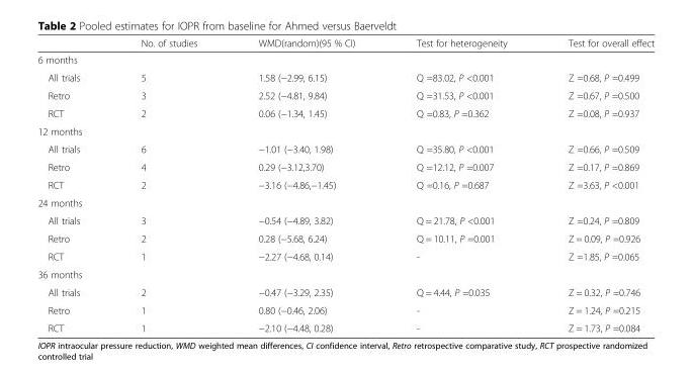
<table><thead><tr><td></td><td>No. of studies</td><td>WMD(random)(95 % CI)</td><td>Test for heterogeneity</td><td>Test for overall effect</td></tr></thead><tbody><tr><td colspan="5">6 months</td></tr><tr><td>All trials</td><td>5</td><td>1.58 (−2.99, 6.15)</td><td>Q =83.02, P &lt;0.001</td><td>Z =0.68, P =0.499</td></tr><tr><td>Retro</td><td>3</td><td>2.52 (−4.81, 9.84)</td><td>Q =31.53, P &lt;0.001</td><td>Z =0.67, P =0.500</td></tr><tr><td>RCT</td><td>2</td><td>0.06 (−1.34, 1.45)</td><td>Q =0.83, P =0.362</td><td>Z =0.08, P =0.937</td></tr><tr><td colspan="5">12 months</td></tr><tr><td>All trials</td><td>6</td><td>−1.01 (−3.40, 1.98)</td><td>Q =35.80, P &lt;0.001</td><td>Z =0.66, P =0.509</td></tr><tr><td>Retro</td><td>4</td><td>0.29 (−3.12,3.70)</td><td>Q =12.12, P =0.007</td><td>Z =0.17, P =0.869</td></tr><tr><td>RCT</td><td>2</td><td>−3.16 (−4.86,−1.45)</td><td>Q =0.16, P =0.687</td><td>Z =3.63, P &lt;0.001</td></tr><tr><td colspan="5">24 months</td></tr><tr><td>All trials</td><td>3</td><td>−0.54 (−4.89, 3.82)</td><td>Q = 21.78, P &lt;0.001</td><td>Z =0.24, P =0.809</td></tr><tr><td>Retro</td><td>2</td><td>0.28 (−5.68, 6.24)</td><td>Q = 10.11, P =0.001</td><td>Z = 0.09, P =0.926</td></tr><tr><td>RCT</td><td>1</td><td>−2.27 (−4.68, 0.14)</td><td>-</td><td>Z =1.85, P =0.065</td></tr><tr><td colspan="5">36 months</td></tr><tr><td>All trials</td><td>2</td><td>−0.47 (−3.29, 2.35)</td><td>Q = 4.44, P =0.035</td><td>Z = 0.32, P =0.746</td></tr><tr><td>Retro</td><td>1</td><td>0.80 (−0.46, 2.06)</td><td>-</td><td>Z = 1.24, P =0.215</td></tr><tr><td>RCT</td><td>1</td><td>−2.10 (−4.48, 0.28)</td><td>-</td><td>Z = 1.73, P =0.084</td></tr></tbody></table>